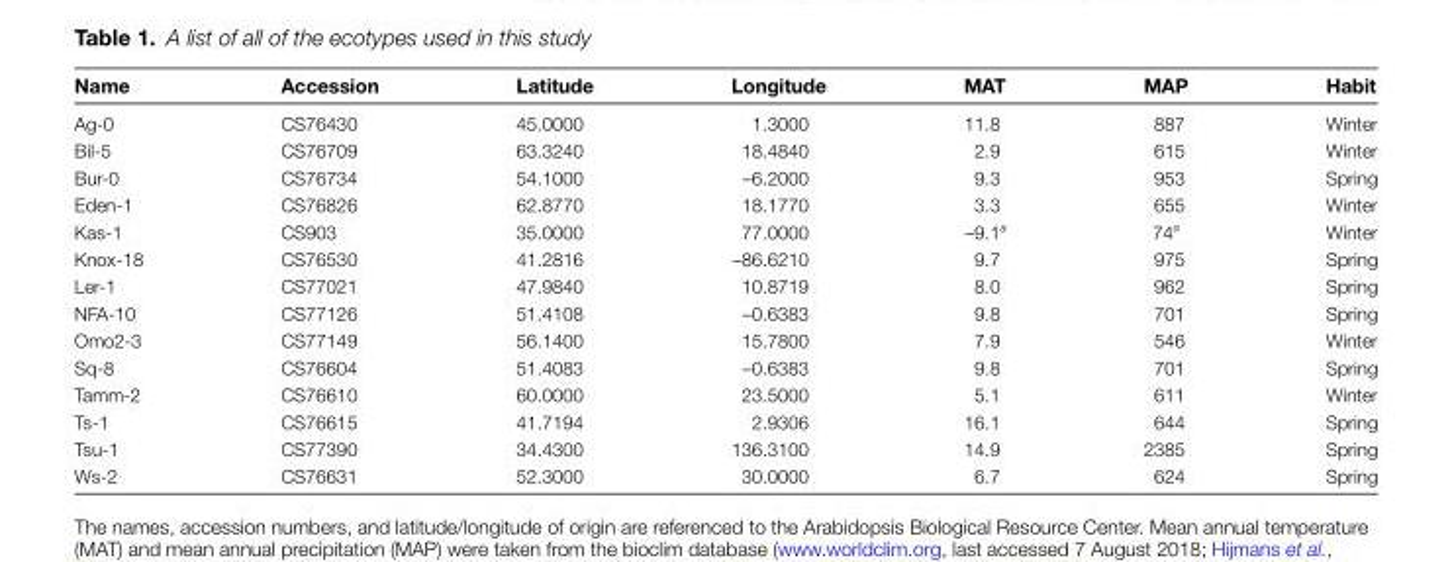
<table><thead><tr><td>Name</td><td>Accession</td><td>Latitude</td><td>Longitude</td><td>MAT</td><td>MAP</td><td>Habit</td></tr></thead><tbody><tr><td>Ag-0</td><td>CS76430</td><td>45.0000</td><td>1.3000</td><td>11.8</td><td>887</td><td>Winter</td></tr><tr><td>Bil-5</td><td>CS76709</td><td>63.3240</td><td>18.4840</td><td>2.9</td><td>615</td><td>Winter</td></tr><tr><td>Bur-0</td><td>CS76734</td><td>54.1000</td><td>–6.2000</td><td>9.3</td><td>953</td><td>Spring</td></tr><tr><td>Eden-1</td><td>CS76826</td><td>62.8770</td><td>18.1770</td><td>3.3</td><td>655</td><td>Winter</td></tr><tr><td>Kas-1</td><td>CS903</td><td>35.0000</td><td>77.0000</td><td>–9.1<sup>a</sup></td><td>74<sup>a</sup></td><td>Winter</td></tr><tr><td>Knox-18</td><td>CS76530</td><td>41.2816</td><td>–86.6210</td><td>9.7</td><td>975</td><td>Spring</td></tr><tr><td>Ler-1</td><td>CS77021</td><td>47.9840</td><td>10.8719</td><td>8.0</td><td>962</td><td>Spring</td></tr><tr><td>NFA-10</td><td>CS77126</td><td>51.4108</td><td>–0.6383</td><td>9.8</td><td>701</td><td>Spring</td></tr><tr><td>Omo2-3</td><td>CS77149</td><td>56.1400</td><td>15.7800</td><td>7.9</td><td>546</td><td>Winter</td></tr><tr><td>Sq-8</td><td>CS76604</td><td>51.4083</td><td>–0.6383</td><td>9.8</td><td>701</td><td>Spring</td></tr><tr><td>Tamm-2</td><td>CS76610</td><td>60.0000</td><td>23.5000</td><td>5.1</td><td>611</td><td>Winter</td></tr><tr><td>Ts-1</td><td>CS76615</td><td>41.7194</td><td>2.9306</td><td>16.1</td><td>644</td><td>Spring</td></tr><tr><td>Tsu-1</td><td>CS77390</td><td>34.4300</td><td>136.3100</td><td>14.9</td><td>2385</td><td>Spring</td></tr><tr><td>Ws-2</td><td>CS76631</td><td>52.3000</td><td>30.0000</td><td>6.7</td><td>624</td><td>Spring</td></tr></tbody></table>